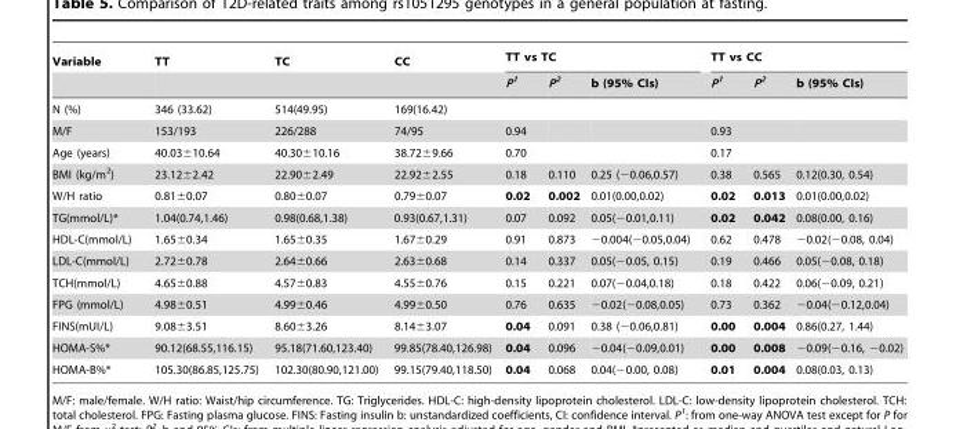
<table><thead><tr><td rowspan="2">Variable</td><td rowspan="2">TT</td><td rowspan="2">TC</td><td rowspan="2">CC</td><td colspan="3">TT vs TC</td><td colspan="3">TT vs CC</td></tr><tr><td>P<sup>1</sup></td><td>P<sup>2</sup></td><td>b (95% CIs)</td><td>P<sup>1</sup></td><td>P<sup>2</sup></td><td>b (95% CIs)</td></tr></thead><tbody><tr><td>N (%)</td><td>346 (33.62)</td><td>514(49.95)</td><td>169(16.42)</td><td></td><td></td><td></td><td></td><td></td><td></td></tr><tr><td>M/F</td><td>153/193</td><td>226/288</td><td>74/95</td><td>0.94</td><td></td><td></td><td>0.93</td><td></td><td></td></tr><tr><td>Age (years)</td><td>40.03±10.64</td><td>40.30±10.16</td><td>38.72±9.66</td><td>0.70</td><td></td><td></td><td>0.17</td><td></td><td></td></tr><tr><td>BMI (kg/m<sup>2</sup>)</td><td>23.12±2.42</td><td>22.90±2.49</td><td>22.92±2.55</td><td>0.18</td><td>0.110</td><td>0.25 (−0.06,0.57)</td><td>0.38</td><td>0.565</td><td>0.12(0.30, 0.54)</td></tr><tr><td>W/H ratio</td><td>0.81±0.07</td><td>0.80±0.07</td><td>0.79±0.07</td><td>0.02</td><td>0.002</td><td>0.01(0.00,0.02)</td><td>0.02</td><td>0.013</td><td>0.01(0.00,0.02)</td></tr><tr><td>TG(mmol/L)*</td><td>1.04(0.74,1.46)</td><td>0.98(0.68,1.38)</td><td>0.93(0.67,1.31)</td><td>0.07</td><td>0.092</td><td>0.05(−0.01,0.11)</td><td>0.02</td><td>0.042</td><td>0.08(0.00, 0.16)</td></tr><tr><td>HDL-C(mmol/L)</td><td>1.65±0.34</td><td>1.65±0.35</td><td>1.67±0.29</td><td>0.91</td><td>0.873</td><td>−0.004(−0.05,0.04)</td><td>0.62</td><td>0.478</td><td>−0.02(−0.08, 0.04)</td></tr><tr><td>LDL-C(mmol/L)</td><td>2.72±0.78</td><td>2.64±0.66</td><td>2.63±0.68</td><td>0.14</td><td>0.337</td><td>0.05(−0.05, 0.15)</td><td>0.19</td><td>0.466</td><td>0.05(−0.08, 0.18)</td></tr><tr><td>TCH(mmol/L)</td><td>4.65±0.88</td><td>4.57±0.83</td><td>4.55±0.76</td><td>0.15</td><td>0.221</td><td>0.07(−0.04,0.18)</td><td>0.18</td><td>0.422</td><td>0.06(−0.09, 0.21)</td></tr><tr><td>FPG (mmol/L)</td><td>4.98±0.51</td><td>4.99±0.46</td><td>4.99±0.50</td><td>0.76</td><td>0.635</td><td>−0.02(−0.08,0.05)</td><td>0.73</td><td>0.362</td><td>−0.04(−0.12,0.04)</td></tr><tr><td>FINS(mUI/L)</td><td>9.08±3.51</td><td>8.60±3.26</td><td>8.14±3.07</td><td>0.04</td><td>0.091</td><td>0.38 (−0.06,0.81)</td><td>0.00</td><td>0.004</td><td>0.86(0.27, 1.44)</td></tr><tr><td>HOMA-S%*</td><td>90.12(68.55,116.15)</td><td>95.18(71.60,123.40)</td><td>99.85(78.40,126.98)</td><td>0.04</td><td>0.096</td><td>−0.04(−0.09,0.01)</td><td>0.00</td><td>0.008</td><td>−0.09(−0.16, −0.02)</td></tr><tr><td>HOMA-B%*</td><td>105.30(86.85,125.75)</td><td>102.30(80.90,121.00)</td><td>99.15(79.40,118.50)</td><td>0.04</td><td>0.068</td><td>0.04(−0.00, 0.08)</td><td>0.01</td><td>0.004</td><td>0.08(0.03, 0.13)</td></tr></tbody></table>